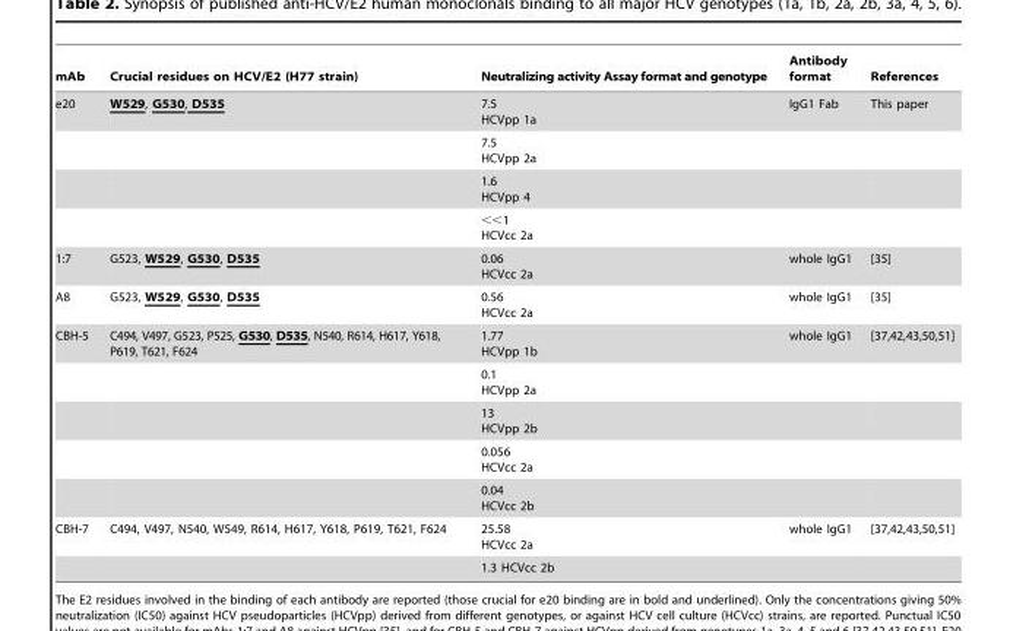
<table><thead><tr><td>mAb</td><td>Crucial residues on HCV/E2 (H77 strain)</td><td>Neutralizing activity Assay format and genotype</td><td>Antibody format</td><td>References</td></tr></thead><tbody><tr><td rowspan="4">e20</td><td>W529, G530, D535</td><td>7.5 HCVpp 1a</td><td>IgG1 Fab</td><td>This paper</td></tr><tr><td></td><td>7.5 HCVpp 2a</td><td></td><td></td></tr><tr><td></td><td>1.6 HCVpp 4</td><td></td><td></td></tr><tr><td></td><td>&lt;&lt;1 HCVcc 2a</td><td></td><td></td></tr><tr><td>1:7</td><td>G523, W529, G530, D535</td><td>0.06 HCVcc 2a</td><td>whole IgG1</td><td>[35]</td></tr><tr><td>A8</td><td>G523, W529, G530, D535</td><td>0.56 HCVcc 2a</td><td>whole IgG1</td><td>[35]</td></tr><tr><td rowspan="5">CBH-5</td><td>C494, V497, G523, P525, G530, D535, N540, R614, H617, Y618, P619, T621, F624</td><td>1.77 HCVpp 1b</td><td>whole IgG1</td><td>[37,42,43,50,51]</td></tr><tr><td></td><td>0.1 HCVpp 2a</td><td></td><td></td></tr><tr><td></td><td>13 HCVpp 2b</td><td></td><td></td></tr><tr><td></td><td>0.056 HCVcc 2a</td><td></td><td></td></tr><tr><td></td><td>0.04 HCVcc 2b</td><td></td><td></td></tr><tr><td rowspan="2">CBH-7</td><td>C494, V497, N540, W549, R614, H617, Y618, P619, T621, F624</td><td>25.58 HCVcc 2a</td><td>whole IgG1</td><td>[37,42,43,50,51]</td></tr><tr><td></td><td>1.3 HCVcc 2b</td><td></td><td></td></tr></tbody></table>